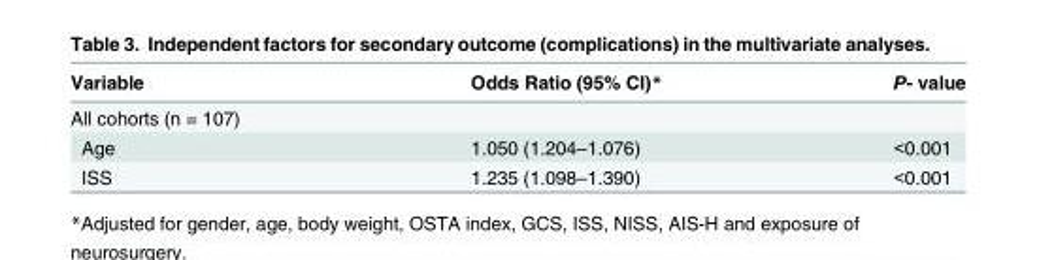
<table><thead><tr><td>Variable</td><td>Odds Ratio (95% CI)*</td><td>P- value</td></tr></thead><tbody><tr><td colspan="3">All cohorts (n = 107)</td></tr><tr><td>Age</td><td>1.050 (1.204–1.076)</td><td>&lt;0.001</td></tr><tr><td>ISS</td><td>1.235 (1.098–1.390)</td><td>&lt;0.001</td></tr></tbody></table>